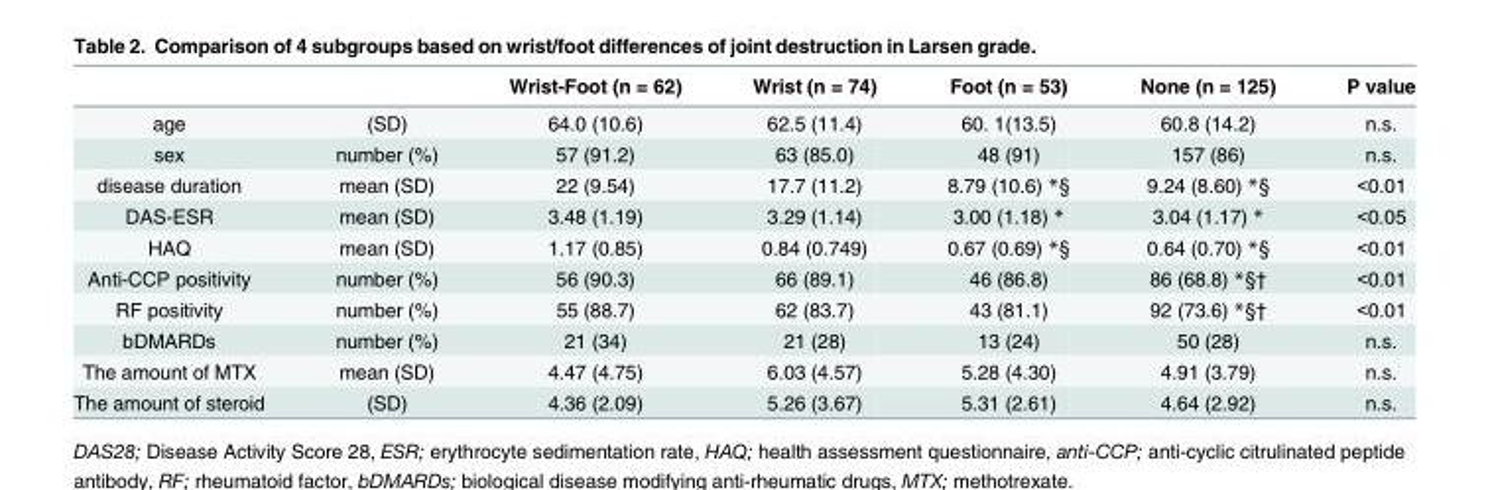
<table><thead><tr><td></td><td></td><td>Wrist-Foot (n = 62)</td><td>Wrist (n = 74)</td><td>Foot (n = 53)</td><td>None (n = 125)</td><td>P value</td></tr></thead><tbody><tr><td>age</td><td>(SD)</td><td>64.0 (10.6)</td><td>62.5 (11.4)</td><td>60. 1(13.5)</td><td>60.8 (14.2)</td><td>n.s.</td></tr><tr><td>sex</td><td>number (%)</td><td>57 (91.2)</td><td>63 (85.0)</td><td>48 (91)</td><td>157 (86)</td><td>n.s.</td></tr><tr><td>disease duration</td><td>mean (SD)</td><td>22 (9.54)</td><td>17.7 (11.2)</td><td>8.79 (10.6) *§</td><td>9.24 (8.60) *§</td><td>&lt;0.01</td></tr><tr><td>DAS-ESR</td><td>mean (SD)</td><td>3.48 (1.19)</td><td>3.29 (1.14)</td><td>3.00 (1.18) *</td><td>3.04 (1.17) *</td><td>&lt;0.05</td></tr><tr><td>HAQ</td><td>mean (SD)</td><td>1.17 (0.85)</td><td>0.84 (0.749)</td><td>0.67 (0.69) *§</td><td>0.64 (0.70) *§</td><td>&lt;0.01</td></tr><tr><td>Anti-CCP positivity</td><td>number (%)</td><td>56 (90.3)</td><td>66 (89.1)</td><td>46 (86.8)</td><td>86 (68.8) *§†</td><td>&lt;0.01</td></tr><tr><td>RF positivity</td><td>number (%)</td><td>55 (88.7)</td><td>62 (83.7)</td><td>43 (81.1)</td><td>92 (73.6) *§†</td><td>&lt;0.01</td></tr><tr><td>bDMARDs</td><td>number (%)</td><td>21 (34)</td><td>21 (28)</td><td>13 (24)</td><td>50 (28)</td><td>n.s.</td></tr><tr><td>The amount of MTX</td><td>mean (SD)</td><td>4.47 (4.75)</td><td>6.03 (4.57)</td><td>5.28 (4.30)</td><td>4.91 (3.79)</td><td>n.s.</td></tr><tr><td>The amount of steroid</td><td>(SD)</td><td>4.36 (2.09)</td><td>5.26 (3.67)</td><td>5.31 (2.61)</td><td>4.64 (2.92)</td><td>n.s.</td></tr></tbody></table>